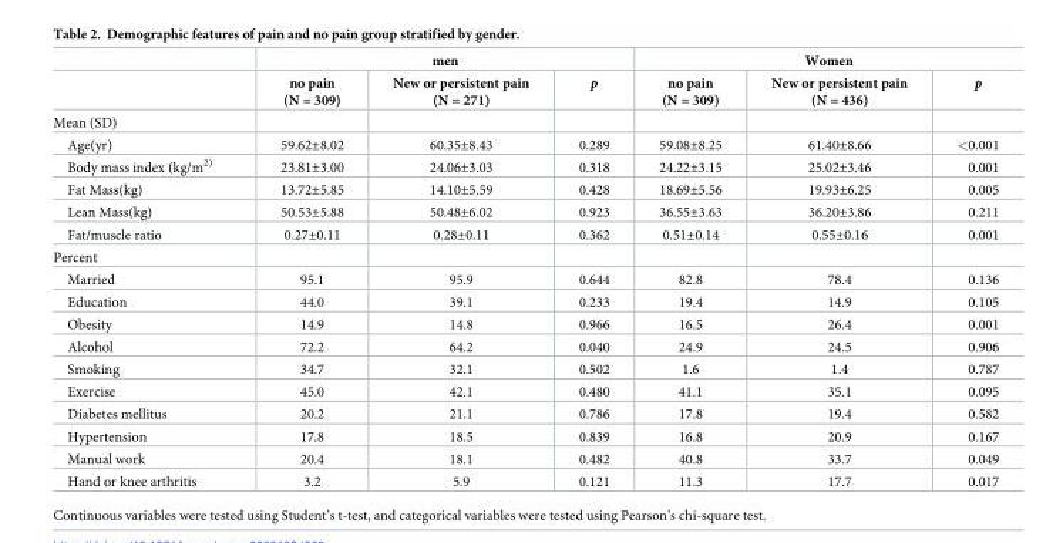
<table><thead><tr><td rowspan="2"></td><td colspan="3">men</td><td colspan="3">Women</td></tr><tr><td>no pain (N = 309)</td><td>New or persistent pain (N = 271)</td><td>p</td><td>no pain (N = 309)</td><td>New or persistent pain (N = 436)</td><td>p</td></tr></thead><tbody><tr><td colspan="7">Mean (SD)</td></tr><tr><td>Age(yr)</td><td>59.62±8.02</td><td>60.35±8.43</td><td>0.289</td><td>59.08±8.25</td><td>61.40±8.66</td><td>&lt;0.001</td></tr><tr><td>Body mass index (kg/m<sup>2)</sup></td><td>23.81±3.00</td><td>24.06±3.03</td><td>0.318</td><td>24.22±3.15</td><td>25.02±3.46</td><td>0.001</td></tr><tr><td>Fat Mass(kg)</td><td>13.72±5.85</td><td>14.10±5.59</td><td>0.428</td><td>18.69±5.56</td><td>19.93±6.25</td><td>0.005</td></tr><tr><td>Lean Mass(kg)</td><td>50.53±5.88</td><td>50.48±6.02</td><td>0.923</td><td>36.55±3.63</td><td>36.20±3.86</td><td>0.211</td></tr><tr><td>Fat/muscle ratio</td><td>0.27±0.11</td><td>0.28±0.11</td><td>0.362</td><td>0.51±0.14</td><td>0.55±0.16</td><td>0.001</td></tr><tr><td colspan="7">Percent</td></tr><tr><td>Married</td><td>95.1</td><td>95.9</td><td>0.644</td><td>82.8</td><td>78.4</td><td>0.136</td></tr><tr><td>Education</td><td>44.0</td><td>39.1</td><td>0.233</td><td>19.4</td><td>14.9</td><td>0.105</td></tr><tr><td>Obesity</td><td>14.9</td><td>14.8</td><td>0.966</td><td>16.5</td><td>26.4</td><td>0.001</td></tr><tr><td>Alcohol</td><td>72.2</td><td>64.2</td><td>0.040</td><td>24.9</td><td>24.5</td><td>0.906</td></tr><tr><td>Smoking</td><td>34.7</td><td>32.1</td><td>0.502</td><td>1.6</td><td>1.4</td><td>0.787</td></tr><tr><td>Exercise</td><td>45.0</td><td>42.1</td><td>0.480</td><td>41.1</td><td>35.1</td><td>0.095</td></tr><tr><td>Diabetes mellitus</td><td>20.2</td><td>21.1</td><td>0.786</td><td>17.8</td><td>19.4</td><td>0.582</td></tr><tr><td>Hypertension</td><td>17.8</td><td>18.5</td><td>0.839</td><td>16.8</td><td>20.9</td><td>0.167</td></tr><tr><td>Manual work</td><td>20.4</td><td>18.1</td><td>0.482</td><td>40.8</td><td>33.7</td><td>0.049</td></tr><tr><td>Hand or knee arthritis</td><td>3.2</td><td>5.9</td><td>0.121</td><td>11.3</td><td>17.7</td><td>0.017</td></tr></tbody></table>